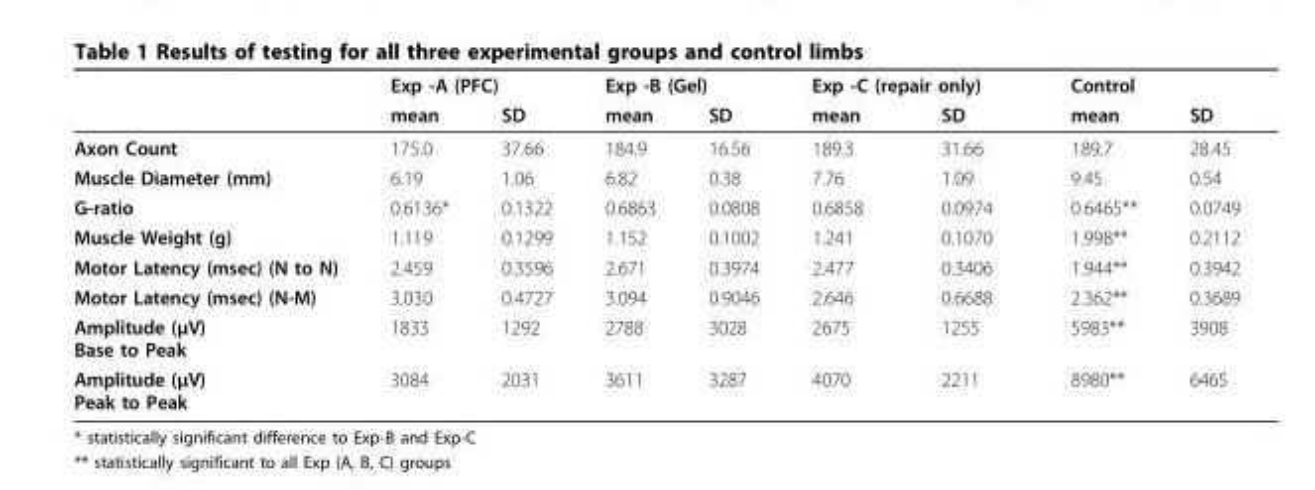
<table><thead><tr><td rowspan="2"></td><td colspan="2">Exp -A (PFC)</td><td colspan="2">Exp -B (Gel)</td><td colspan="2">Exp -C (repair only)</td><td colspan="2">Control</td></tr><tr><td>mean</td><td>SD</td><td>mean</td><td>SD</td><td>mean</td><td>SD</td><td>mean</td><td>SD</td></tr></thead><tbody><tr><td>Axon Count</td><td>175.0</td><td>37.66</td><td>184.9</td><td>16.56</td><td>189.3</td><td>31.66</td><td>189.7</td><td>28.45</td></tr><tr><td>Muscle Diameter (mm)</td><td>6.19</td><td>1.06</td><td>6.82</td><td>0.38</td><td>7.76</td><td>1.09</td><td>9.45</td><td>0.54</td></tr><tr><td>G-ratio</td><td>0.6136*</td><td>0.1322</td><td>0.6863</td><td>0.0808</td><td>0.6858</td><td>0.0974</td><td>0.6465**</td><td>0.0749</td></tr><tr><td>Muscle Weight (g)</td><td>1.119</td><td>0.1299</td><td>1.152</td><td>0.1002</td><td>1.241</td><td>0.1070</td><td>1.998**</td><td>0.2112</td></tr><tr><td>Motor Latency (msec) (N to N)</td><td>2.459</td><td>0.3596</td><td>2.671</td><td>0.3974</td><td>2.477</td><td>0.3406</td><td>1.944**</td><td>0.3942</td></tr><tr><td>Motor Latency (msec) (N-M)</td><td>3.030</td><td>0.4727</td><td>3.094</td><td>0.9046</td><td>2.646</td><td>0.6688</td><td>2.362**</td><td>0.3689</td></tr><tr><td>Amplitude (μV) Base to Peak</td><td>1833</td><td>1292</td><td>2788</td><td>3028</td><td>2675</td><td>1255</td><td>5983**</td><td>3908</td></tr><tr><td>Amplitude (μV) Peak to Peak</td><td>3084</td><td>2031</td><td>3611</td><td>3287</td><td>4070</td><td>2211</td><td>8980**</td><td>6465</td></tr></tbody></table>